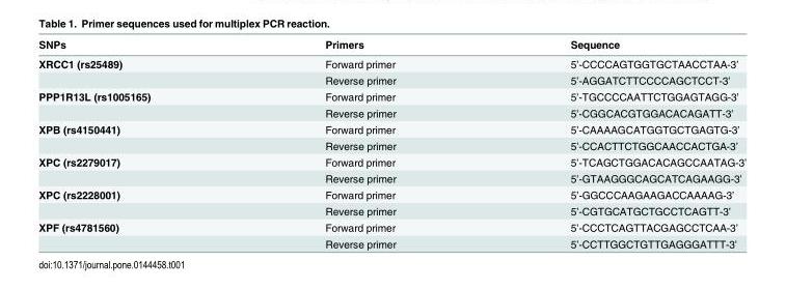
<table><thead><tr><td>SNPs</td><td>Primers</td><td>Sequence</td></tr></thead><tbody><tr><td rowspan="2">XRCC1 (rs25489)</td><td>Forward primer</td><td>5’-CCCCAGTGGTGCTAACCTAA-3’</td></tr><tr><td>Reverse primer</td><td>5’-AGGATCTTCCCCAGCTCCT-3’</td></tr><tr><td rowspan="2">PPP1R13L (rs1005165)</td><td>Forward primer</td><td>5’-TGCCCCAATTCTGGAGTAGG-3’</td></tr><tr><td>Reverse primer</td><td>5’-CGGCACGTGGACACAGATT-3’</td></tr><tr><td rowspan="2">XPB (rs4150441)</td><td>Forward primer</td><td>5’-CAAAAGCATGGTGCTGAGTG-3’</td></tr><tr><td>Reverse primer</td><td>5’-CCACTTCTGGCAACCACTGA-3’</td></tr><tr><td rowspan="2">XPC (rs2279017)</td><td>Forward primer</td><td>5’-TCAGCTGGACACAGCCAATAG-3’</td></tr><tr><td>Reverse primer</td><td>5’-GTAAGGGCAGCATCAGAAGG-3’</td></tr><tr><td rowspan="2">XPC (rs2228001)</td><td>Forward primer</td><td>5’-GGCCCAAGAAGACCAAAAG-3’</td></tr><tr><td>Reverse primer</td><td>5’-CGTGCATGCTGCCTCAGTT-3’</td></tr><tr><td rowspan="2">XPF (rs4781560)</td><td>Forward primer</td><td>5’-CCCTCAGTTACGAGCCTCAA-3’</td></tr><tr><td>Reverse primer</td><td>5’-CCTTGGCTGTTGAGGGATTT-3’</td></tr></tbody></table>